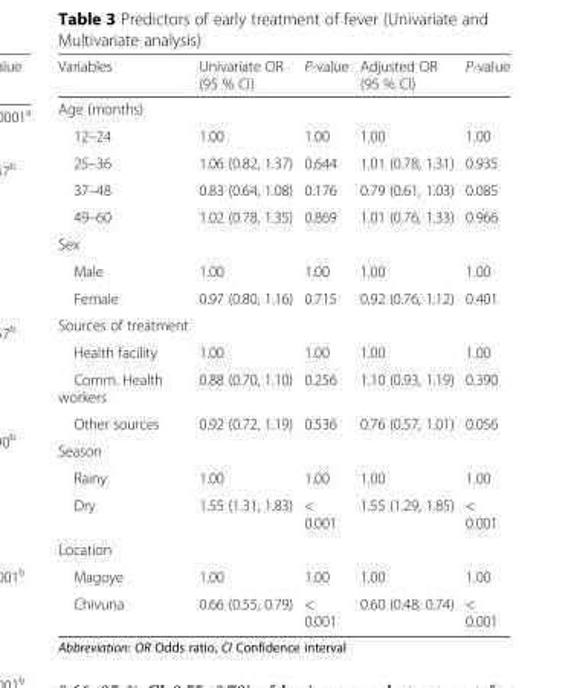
<table><thead><tr><td>Variables</td><td>Univariate OR (95 % CI)</td><td>P-value</td><td>Adjusted OR (95 % CI)</td><td>P-value</td></tr></thead><tbody><tr><td colspan="5">Age (months)</td></tr><tr><td>12–24</td><td>1.00</td><td>1.00</td><td>1.00</td><td>1.00</td></tr><tr><td>25–36</td><td>1.06 (0.82, 1.37)</td><td>0.644</td><td>1.01 (0.78, 1.31)</td><td>0.935</td></tr><tr><td>37–48</td><td>0.83 (0.64, 1.08)</td><td>0.176</td><td>0.79 (0.61, 1.03)</td><td>0.085</td></tr><tr><td>49–60</td><td>1.02 (0.78, 1.35)</td><td>0.869</td><td>1.01 (0.76, 1.33)</td><td>0.966</td></tr><tr><td colspan="5">Sex</td></tr><tr><td>Male</td><td>1.00</td><td>1.00</td><td>1.00</td><td>1.00</td></tr><tr><td>Female</td><td>0.97 (0.80, 1.16)</td><td>0.715</td><td>0.92 (0.76, 1.12)</td><td>0.401</td></tr><tr><td colspan="5">Sources of treatment</td></tr><tr><td>Health facility</td><td>1.00</td><td>1.00</td><td>1.00</td><td>1.00</td></tr><tr><td>Comm. Health workers</td><td>0.88 (0.70, 1.10)</td><td>0.256</td><td>1.10 (0.93, 1.19)</td><td>0.390</td></tr><tr><td>Other sources</td><td>0.92 (0.72, 1.19)</td><td>0.536</td><td>0.76 (0.57, 1.01)</td><td>0.056</td></tr><tr><td colspan="5">Season</td></tr><tr><td>Rainy</td><td>1.00</td><td>1.00</td><td>1.00</td><td>1.00</td></tr><tr><td>Dry</td><td>1.55 (1.31, 1.83)</td><td>&lt; 0.001</td><td>1.55 (1.29, 1.85)</td><td>&lt; 0.001</td></tr><tr><td colspan="5">Location</td></tr><tr><td>Magoye</td><td>1.00</td><td>1.00</td><td>1.00</td><td>1.00</td></tr><tr><td>Chivuna</td><td>0.66 (0.55, 0.79)</td><td>&lt; 0.001</td><td>0.60 (0.48, 0.74)</td><td>&lt; 0.001</td></tr></tbody></table>